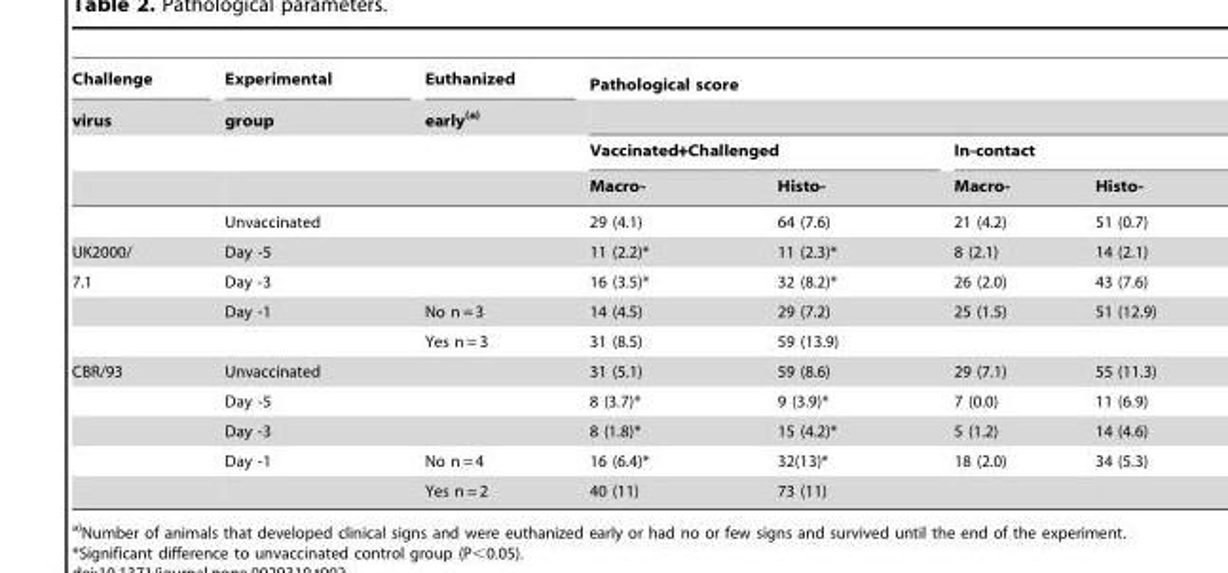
<table><thead><tr><td rowspan="4">Challenge virus</td><td rowspan="4">Experimental group</td><td rowspan="4">Euthanized early(a)</td><td colspan="4">Pathological score</td></tr><tr><td></td><td></td><td></td><td></td></tr><tr><td colspan="2">Vaccinated+Challenged</td><td colspan="2">In-contact</td></tr><tr><td>Macro-</td><td>Histo-</td><td>Macro-</td><td>Histo-</td></tr></thead><tbody><tr><td></td><td>Unvaccinated</td><td></td><td>29 (4.1)</td><td>64 (7.6)</td><td>21 (4.2)</td><td>51 (0.7)</td></tr><tr><td>UK2000/</td><td>Day -5</td><td></td><td>11 (2.2)*</td><td>11 (2.3)*</td><td>8 (2.1)</td><td>14 (2.1)</td></tr><tr><td rowspan="3">7.1</td><td>Day -3</td><td></td><td>16 (3.5)*</td><td>32 (8.2)*</td><td>26 (2.0)</td><td>43 (7.6)</td></tr><tr><td>Day -1</td><td>No n = 3</td><td>14 (4.5)</td><td>29 (7.2)</td><td>25 (1.5)</td><td>51 (12.9)</td></tr><tr><td></td><td>Yes n = 3</td><td>31 (8.5)</td><td>59 (13.9)</td><td></td><td></td></tr><tr><td rowspan="5">CBR/93</td><td>Unvaccinated</td><td></td><td>31 (5.1)</td><td>59 (8.6)</td><td>29 (7.1)</td><td>55 (11.3)</td></tr><tr><td>Day -5</td><td></td><td>8 (3.7)*</td><td>9 (3.9)*</td><td>7 (0.0)</td><td>11 (6.9)</td></tr><tr><td>Day -3</td><td></td><td>8 (1.8)*</td><td>15 (4.2)*</td><td>5 (1.2)</td><td>14 (4.6)</td></tr><tr><td>Day -1</td><td>No n = 4</td><td>16 (6.4)*</td><td>32(13)*</td><td>18 (2.0)</td><td>34 (5.3)</td></tr><tr><td></td><td>Yes n = 2</td><td>40 (11)</td><td>73 (11)</td><td></td><td></td></tr></tbody></table>